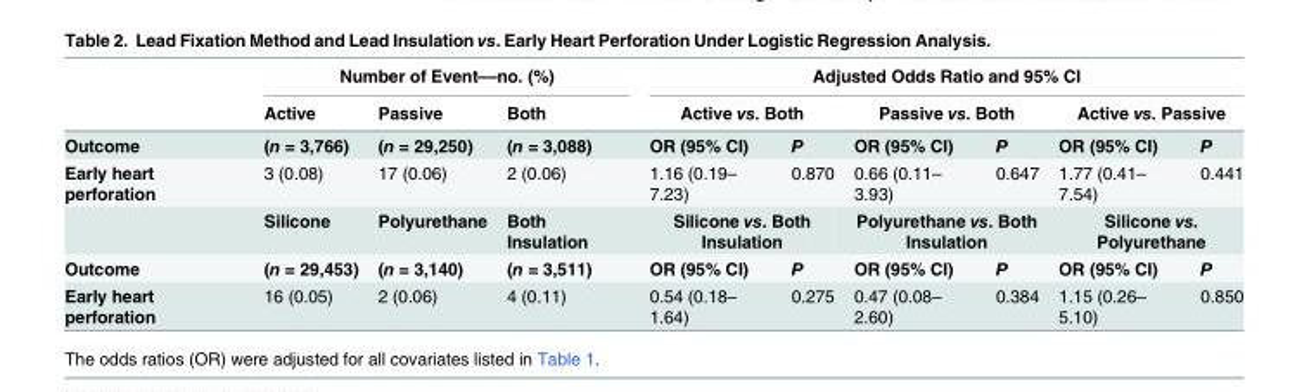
<table><thead><tr><td rowspan="3">Outcome</td><td colspan="3">Number of Event––no. (%)</td><td colspan="6">Adjusted Odds Ratio and 95% CI</td></tr><tr><td rowspan="2">Active (n = 3,766)</td><td rowspan="2">Passive (n = 29,250)</td><td rowspan="2">Both (n = 3,088)</td><td colspan="2">Active vs. Both</td><td colspan="2">Passive vs. Both</td><td colspan="2">Active vs. Passive</td></tr><tr><td>OR (95% CI)</td><td>P</td><td>OR (95% CI)</td><td>P</td><td>OR (95% CI)</td><td>P</td></tr></thead><tbody><tr><td rowspan="2">Early heart perforation</td><td>3 (0.08)</td><td>17 (0.06)</td><td>2 (0.06)</td><td>1.16 (0.19– 7.23)</td><td>0.870</td><td>0.66 (0.11– 3.93)</td><td>0.647</td><td>1.77 (0.41– 7.54)</td><td>0.441</td></tr><tr><td>Silicone</td><td>Polyurethane</td><td>Both Insulation</td><td colspan="2">Silicone vs. Both Insulation</td><td colspan="2">Polyurethane vs. Both Insulation</td><td colspan="2">Silicone vs. Polyurethane</td></tr><tr><td>Outcome</td><td>(n = 29,453)</td><td>(n = 3,140)</td><td>(n = 3,511)</td><td>OR (95% CI)</td><td>P</td><td>OR (95% CI)</td><td>P</td><td>OR (95% CI)</td><td>P</td></tr><tr><td>Early heart perforation</td><td>16 (0.05)</td><td>2 (0.06)</td><td>4 (0.11)</td><td>0.54 (0.18– 1.64)</td><td>0.275</td><td>0.47 (0.08– 2.60)</td><td>0.384</td><td>1.15 (0.26– 5.10)</td><td>0.850</td></tr></tbody></table>